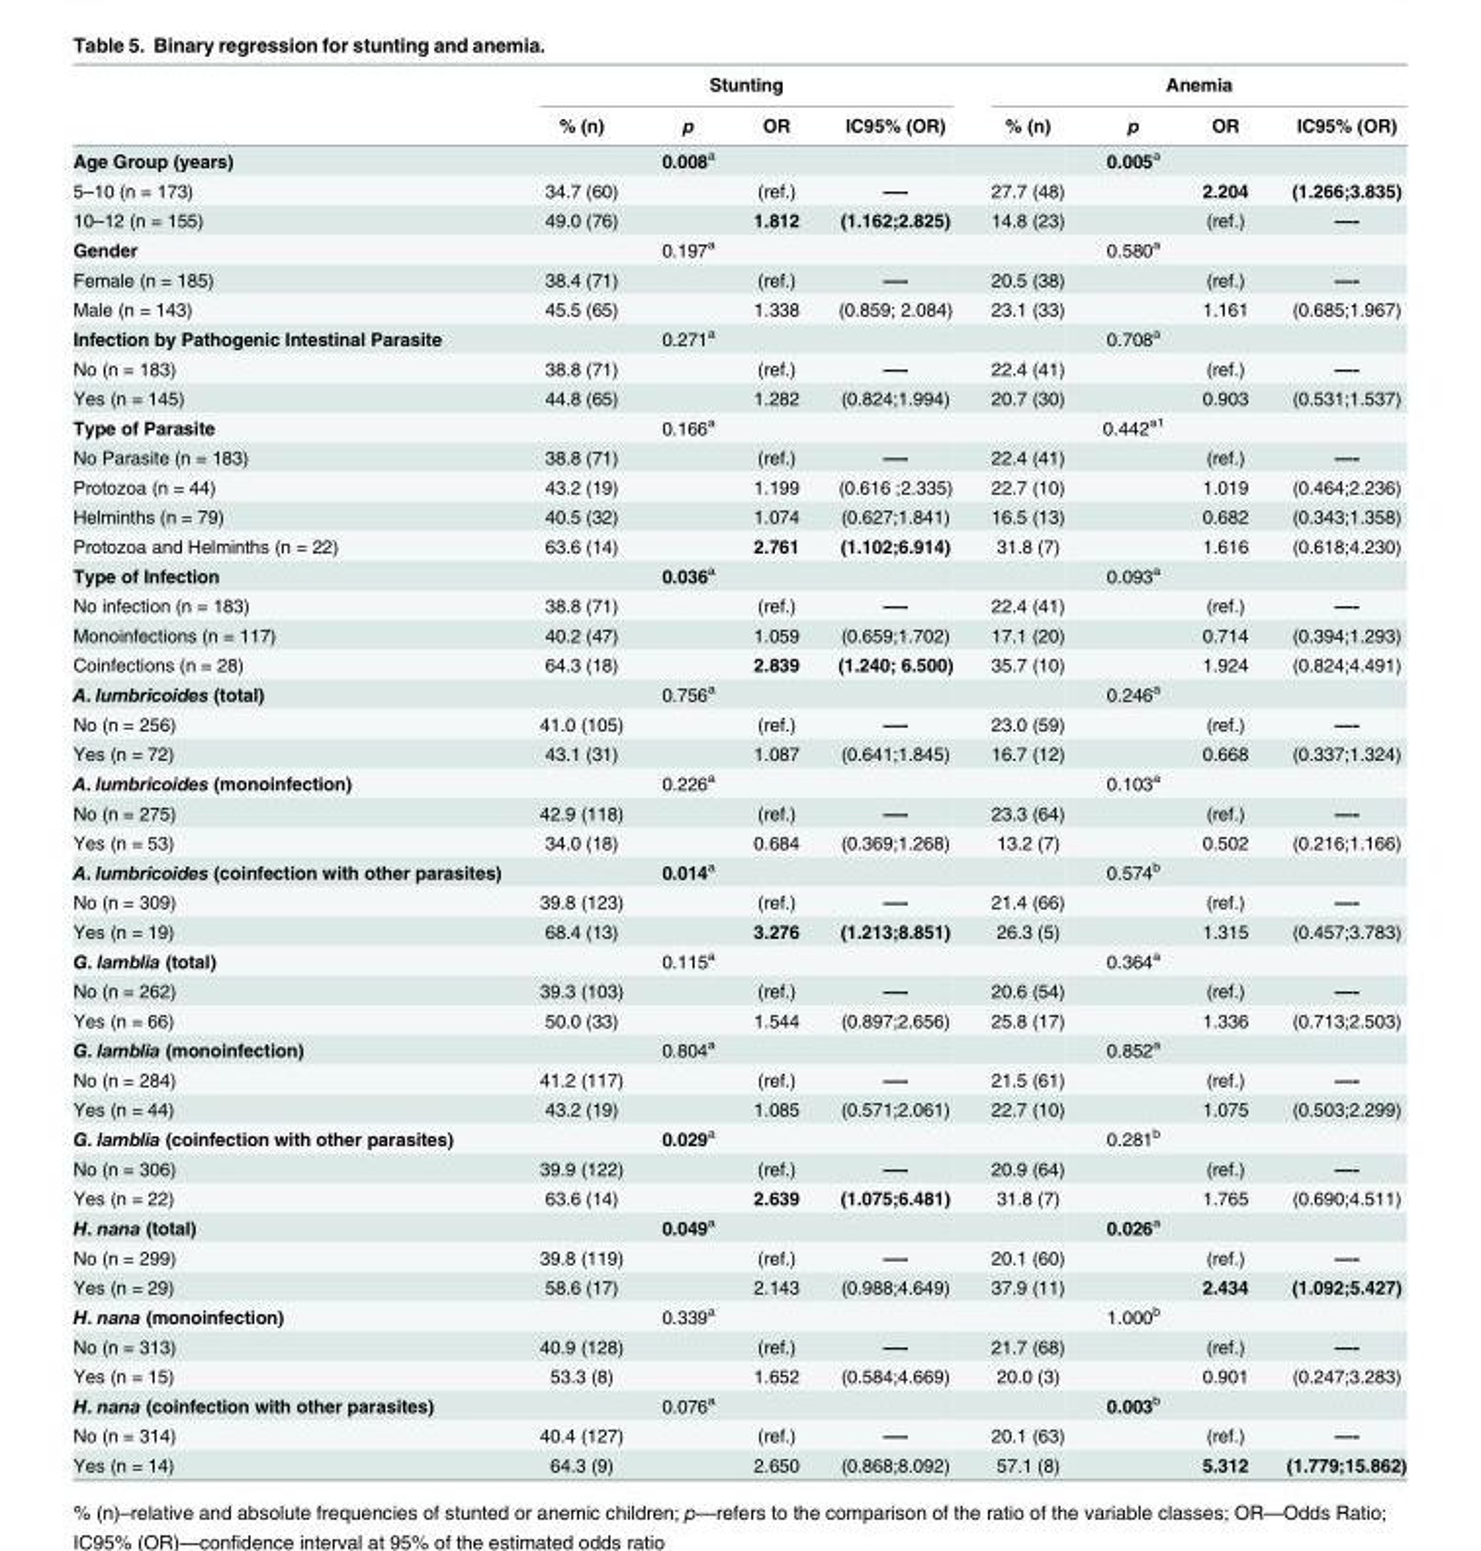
<table><thead><tr><td rowspan="2"></td><td colspan="4">Stunting</td><td colspan="4">Anemia</td></tr><tr><td>% (n)</td><td>p</td><td>OR</td><td>IC95% (OR)</td><td>% (n)</td><td>p</td><td>OR</td><td>IC95% (OR)</td></tr></thead><tbody><tr><td>Age Group (years)</td><td></td><td>0.008<sup>a</sup></td><td></td><td></td><td></td><td>0.005<sup>a</sup></td><td></td><td></td></tr><tr><td>5–10 (n = 173)</td><td>34.7 (60)</td><td></td><td>(ref.)</td><td>—-</td><td>27.7 (48)</td><td></td><td>2.204</td><td>(1.266;3.835)</td></tr><tr><td>10–12 (n = 155)</td><td>49.0 (76)</td><td></td><td>1.812</td><td>(1.162;2.825)</td><td>14.8 (23)</td><td></td><td>(ref.)</td><td>—-</td></tr><tr><td>Gender</td><td></td><td>0.197<sup>a</sup></td><td></td><td></td><td></td><td>0.580<sup>a</sup></td><td></td><td></td></tr><tr><td>Female (n = 185)</td><td>38.4 (71)</td><td></td><td>(ref.)</td><td>—-</td><td>20.5 (38)</td><td></td><td>(ref.)</td><td>—-</td></tr><tr><td>Male (n = 143)</td><td>45.5 (65)</td><td></td><td>1.338</td><td>(0.859; 2.084)</td><td>23.1 (33)</td><td></td><td>1.161</td><td>(0.685;1.967)</td></tr><tr><td>Infection by Pathogenic Intestinal Parasite</td><td></td><td>0.271<sup>a</sup></td><td></td><td></td><td></td><td>0.708<sup>a</sup></td><td></td><td></td></tr><tr><td>No (n = 183)</td><td>38.8 (71)</td><td></td><td>(ref.)</td><td>—-</td><td>22.4 (41)</td><td></td><td>(ref.)</td><td>—-</td></tr><tr><td>Yes (n = 145)</td><td>44.8 (65)</td><td></td><td>1.282</td><td>(0.824;1.994)</td><td>20.7 (30)</td><td></td><td>0.903</td><td>(0.531;1.537)</td></tr><tr><td>Type of Parasite</td><td></td><td>0.166<sup>a</sup></td><td></td><td></td><td></td><td>0.442<sup>a1</sup></td><td></td><td></td></tr><tr><td>No Parasite (n = 183)</td><td>38.8 (71)</td><td></td><td>(ref.)</td><td>—-</td><td>22.4 (41)</td><td></td><td>(ref.)</td><td>—-</td></tr><tr><td>Protozoa (n = 44)</td><td>43.2 (19)</td><td></td><td>1.199</td><td>(0.616 ;2.335)</td><td>22.7 (10)</td><td></td><td>1.019</td><td>(0.464;2.236)</td></tr><tr><td>Helminths (n = 79)</td><td>40.5 (32)</td><td></td><td>1.074</td><td>(0.627;1.841)</td><td>16.5 (13)</td><td></td><td>0.682</td><td>(0.343;1.358)</td></tr><tr><td>Protozoa and Helminths (n = 22)</td><td>63.6 (14)</td><td></td><td>2.761</td><td>(1.102;6.914)</td><td>31.8 (7)</td><td></td><td>1.616</td><td>(0.618;4.230)</td></tr><tr><td>Type of Infection</td><td></td><td>0.036<sup>a</sup></td><td></td><td></td><td></td><td>0.093<sup>a</sup></td><td></td><td></td></tr><tr><td>No infection (n = 183)</td><td>38.8 (71)</td><td></td><td>(ref.)</td><td>—-</td><td>22.4 (41)</td><td></td><td>(ref.)</td><td>—-</td></tr><tr><td>Monoinfections (n = 117)</td><td>40.2 (47)</td><td></td><td>1.059</td><td>(0.659;1.702)</td><td>17.1 (20)</td><td></td><td>0.714</td><td>(0.394;1.293)</td></tr><tr><td>Coinfections (n = 28)</td><td>64.3 (18)</td><td></td><td>2.839</td><td>(1.240; 6.500)</td><td>35.7 (10)</td><td></td><td>1.924</td><td>(0.824;4.491)</td></tr><tr><td>A. lumbricoides (total)</td><td></td><td>0.756<sup>a</sup></td><td></td><td></td><td></td><td>0.246<sup>a</sup></td><td></td><td></td></tr><tr><td>No (n = 256)</td><td>41.0 (105)</td><td></td><td>(ref.)</td><td>—-</td><td>23.0 (59)</td><td></td><td>(ref.)</td><td>—-</td></tr><tr><td>Yes (n = 72)</td><td>43.1 (31)</td><td></td><td>1.087</td><td>(0.641;1.845)</td><td>16.7 (12)</td><td></td><td>0.668</td><td>(0.337;1.324)</td></tr><tr><td>A. lumbricoides (monoinfection)</td><td></td><td>0.226<sup>a</sup></td><td></td><td></td><td></td><td>0.103<sup>a</sup></td><td></td><td></td></tr><tr><td>No (n = 275)</td><td>42.9 (118)</td><td></td><td>(ref.)</td><td>—-</td><td>23.3 (64)</td><td></td><td>(ref.)</td><td>—-</td></tr><tr><td>Yes (n = 53)</td><td>34.0 (18)</td><td></td><td>0.684</td><td>(0.369;1.268)</td><td>13.2 (7)</td><td></td><td>0.502</td><td>(0.216;1.166)</td></tr><tr><td>A. lumbricoides (coinfection with other parasites)</td><td></td><td>0.014<sup>a</sup></td><td></td><td></td><td></td><td>0.574<sup>b</sup></td><td></td><td></td></tr><tr><td>No (n = 309)</td><td>39.8 (123)</td><td></td><td>(ref.)</td><td>—-</td><td>21.4 (66)</td><td></td><td>(ref.)</td><td>—-</td></tr><tr><td>Yes (n = 19)</td><td>68.4 (13)</td><td></td><td>3.276</td><td>(1.213;8.851)</td><td>26.3 (5)</td><td></td><td>1.315</td><td>(0.457;3.783)</td></tr><tr><td>G. lamblia (total)</td><td></td><td>0.115<sup>a</sup></td><td></td><td></td><td></td><td>0.364<sup>a</sup></td><td></td><td></td></tr><tr><td>No (n = 262)</td><td>39.3 (103)</td><td></td><td>(ref.)</td><td>—-</td><td>20.6 (54)</td><td></td><td>(ref.)</td><td>—-</td></tr><tr><td>Yes (n = 66)</td><td>50.0 (33)</td><td></td><td>1.544</td><td>(0.897;2.656)</td><td>25.8 (17)</td><td></td><td>1.336</td><td>(0.713;2.503)</td></tr><tr><td>G. lamblia (monoinfection)</td><td></td><td>0.804<sup>a</sup></td><td></td><td></td><td></td><td>0.852<sup>a</sup></td><td></td><td></td></tr><tr><td>No (n = 284)</td><td>41.2 (117)</td><td></td><td>(ref.)</td><td>—-</td><td>21.5 (61)</td><td></td><td>(ref.)</td><td>—-</td></tr><tr><td>Yes (n = 44)</td><td>43.2 (19)</td><td></td><td>1.085</td><td>(0.571;2.061)</td><td>22.7 (10)</td><td></td><td>1.075</td><td>(0.503;2.299)</td></tr><tr><td>G. lamblia (coinfection with other parasites)</td><td></td><td>0.029<sup>a</sup></td><td></td><td></td><td></td><td>0.281<sup>b</sup></td><td></td><td></td></tr><tr><td>No (n = 306)</td><td>39.9 (122)</td><td></td><td>(ref.)</td><td>—-</td><td>20.9 (64)</td><td></td><td>(ref.)</td><td>—-</td></tr><tr><td>Yes (n = 22)</td><td>63.6 (14)</td><td></td><td>2.639</td><td>(1.075;6.481)</td><td>31.8 (7)</td><td></td><td>1.765</td><td>(0.690;4.511)</td></tr><tr><td>H. nana (total)</td><td></td><td>0.049<sup>a</sup></td><td></td><td></td><td></td><td>0.026<sup>a</sup></td><td></td><td></td></tr><tr><td>No (n = 299)</td><td>39.8 (119)</td><td></td><td>(ref.)</td><td>—-</td><td>20.1 (60)</td><td></td><td>(ref.)</td><td>—-</td></tr><tr><td>Yes (n = 29)</td><td>58.6 (17)</td><td></td><td>2.143</td><td>(0.988;4.649)</td><td>37.9 (11)</td><td></td><td>2.434</td><td>(1.092;5.427)</td></tr><tr><td>H. nana (monoinfection)</td><td></td><td>0.339<sup>a</sup></td><td></td><td></td><td></td><td>1.000<sup>b</sup></td><td></td><td></td></tr><tr><td>No (n = 313)</td><td>40.9 (128)</td><td></td><td>(ref.)</td><td>—-</td><td>21.7 (68)</td><td></td><td>(ref.)</td><td>—-</td></tr><tr><td>Yes (n = 15)</td><td>53.3 (8)</td><td></td><td>1.652</td><td>(0.584;4.669)</td><td>20.0 (3)</td><td></td><td>0.901</td><td>(0.247;3.283)</td></tr><tr><td>H. nana (coinfection with other parasites)</td><td></td><td>0.076<sup>a</sup></td><td></td><td></td><td></td><td>0.003<sup>b</sup></td><td></td><td></td></tr><tr><td>No (n = 314)</td><td>40.4 (127)</td><td></td><td>(ref.)</td><td>—-</td><td>20.1 (63)</td><td></td><td>(ref.)</td><td>—-</td></tr><tr><td>Yes (n = 14)</td><td>64.3 (9)</td><td></td><td>2.650</td><td>(0.868;8.092)</td><td>57.1 (8)</td><td></td><td>5.312</td><td>(1.779;15.862)</td></tr></tbody></table>